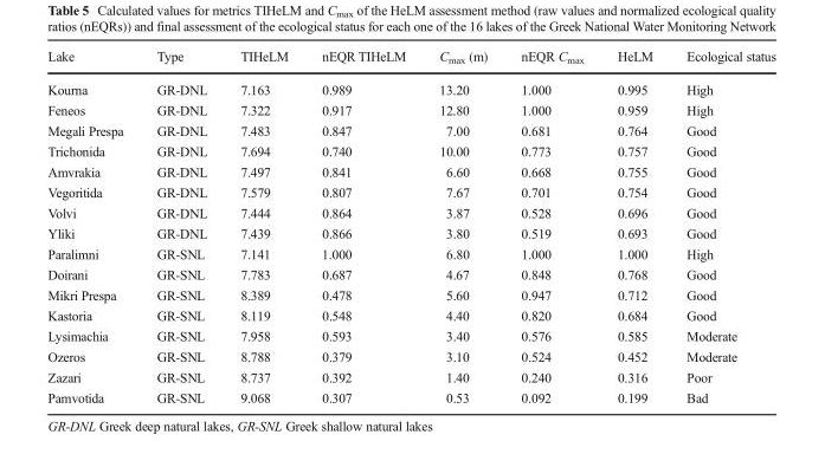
<table><thead><tr><td>Lake</td><td>Type</td><td>TIHeLM</td><td>nEQR TIHeLM</td><td>C<sub>max</sub> (m)</td><td>nEQR C<sub>max</sub></td><td>HeLM</td><td>Ecological status</td></tr></thead><tbody><tr><td>Kourna</td><td>GR-DNL</td><td>7.163</td><td>0.989</td><td>13.20</td><td>1.000</td><td>0.995</td><td>High</td></tr><tr><td>Feneos</td><td>GR-DNL</td><td>7.322</td><td>0.917</td><td>12.80</td><td>1.000</td><td>0.959</td><td>High</td></tr><tr><td>Megali Prespa</td><td>GR-DNL</td><td>7.483</td><td>0.847</td><td>7.00</td><td>0.681</td><td>0.764</td><td>Good</td></tr><tr><td>Trichonida</td><td>GR-DNL</td><td>7.694</td><td>0.740</td><td>10.00</td><td>0.773</td><td>0.757</td><td>Good</td></tr><tr><td>Amvrakia</td><td>GR-DNL</td><td>7.497</td><td>0.841</td><td>6.60</td><td>0.668</td><td>0.755</td><td>Good</td></tr><tr><td>Vegoritida</td><td>GR-DNL</td><td>7.579</td><td>0.807</td><td>7.67</td><td>0.701</td><td>0.754</td><td>Good</td></tr><tr><td>Volvi</td><td>GR-DNL</td><td>7.444</td><td>0.864</td><td>3.87</td><td>0.528</td><td>0.696</td><td>Good</td></tr><tr><td>Yliki</td><td>GR-DNL</td><td>7.439</td><td>0.866</td><td>3.80</td><td>0.519</td><td>0.693</td><td>Good</td></tr><tr><td>Paralimni</td><td>GR-SNL</td><td>7.141</td><td>1.000</td><td>6.80</td><td>1.000</td><td>1.000</td><td>High</td></tr><tr><td>Doirani</td><td>GR-SNL</td><td>7.783</td><td>0.687</td><td>4.67</td><td>0.848</td><td>0.768</td><td>Good</td></tr><tr><td>Mikri Prespa</td><td>GR-SNL</td><td>8.389</td><td>0.478</td><td>5.60</td><td>0.947</td><td>0.712</td><td>Good</td></tr><tr><td>Kastoria</td><td>GR-SNL</td><td>8.119</td><td>0.548</td><td>4.40</td><td>0.820</td><td>0.684</td><td>Good</td></tr><tr><td>Lysimachia</td><td>GR-SNL</td><td>7.958</td><td>0.593</td><td>3.40</td><td>0.576</td><td>0.585</td><td>Moderate</td></tr><tr><td>Ozeros</td><td>GR-SNL</td><td>8.788</td><td>0.379</td><td>3.10</td><td>0.524</td><td>0.452</td><td>Moderate</td></tr><tr><td>Zazari</td><td>GR-SNL</td><td>8.737</td><td>0.392</td><td>1.40</td><td>0.240</td><td>0.316</td><td>Poor</td></tr><tr><td>Pamvotida</td><td>GR-SNL</td><td>9.068</td><td>0.307</td><td>0.53</td><td>0.092</td><td>0.199</td><td>Bad</td></tr></tbody></table>